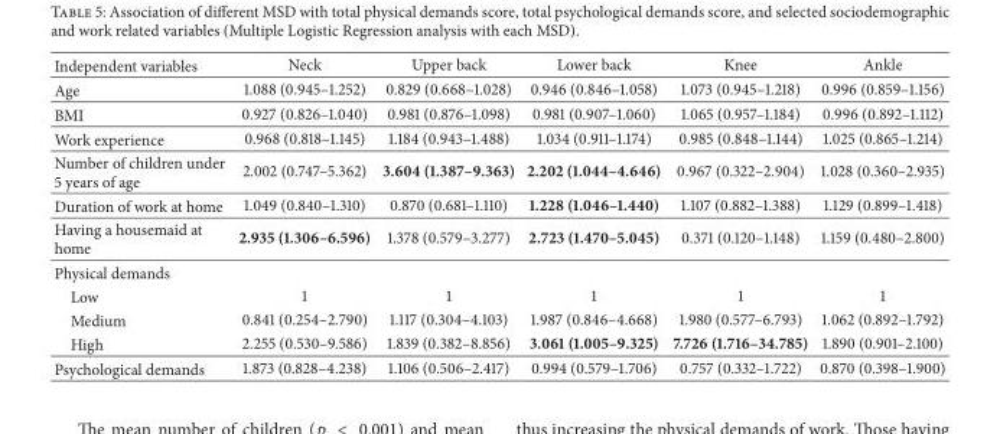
<table><thead><tr><td>Independent variables</td><td>Neck</td><td>Upper back</td><td>Lower back</td><td>Knee</td><td>Ankle</td></tr></thead><tbody><tr><td>Age</td><td>1.088 (0.945–1.252)</td><td>0.829 (0.668–1.028)</td><td>0.946 (0.846–1.058)</td><td>1.073 (0.945–1.218)</td><td>0.996 (0.859–1.156)</td></tr><tr><td>BMI</td><td>0.927 (0.826–1.040)</td><td>0.981 (0.876–1.098)</td><td>0.981 (0.907–1.060)</td><td>1.065 (0.957–1.184)</td><td>0.996 (0.892–1.112)</td></tr><tr><td>Work experience</td><td>0.968 (0.818–1.145)</td><td>1.184 (0.943–1.488)</td><td>1.034 (0.911–1.174)</td><td>0.985 (0.848–1.144)</td><td>1.025 (0.865–1.214)</td></tr><tr><td>Number of children under 5 years of age</td><td>2.002 (0.747–5.362)</td><td>3.604 (1.387–9.363)</td><td>2.202 (1.044–4.646)</td><td>0.967 (0.322–2.904)</td><td>1.028 (0.360–2.935)</td></tr><tr><td>Duration of work at home</td><td>1.049 (0.840–1.310)</td><td>0.870 (0.681–1.110)</td><td>1.228 (1.046–1.440)</td><td>1.107 (0.882–1.388)</td><td>1.129 (0.899–1.418)</td></tr><tr><td>Having a housemaid at home</td><td>2.935 (1.306–6.596)</td><td>1.378 (0.579–3.277)</td><td>2.723 (1.470–5.045)</td><td>0.371 (0.120–1.148)</td><td>1.159 (0.480–2.800)</td></tr><tr><td colspan="6">Physical demands</td></tr><tr><td>Low</td><td>1</td><td>1</td><td>1</td><td>1</td><td>1</td></tr><tr><td>Medium</td><td>0.841 (0.254–2.790)</td><td>1.117 (0.304–4.103)</td><td>1.987 (0.846–4.668)</td><td>1.980 (0.577–6.793)</td><td>1.062 (0.892–1.792)</td></tr><tr><td>High</td><td>2.255 (0.530–9.586)</td><td>1.839 (0.382–8.856)</td><td>3.061 (1.005–9.325)</td><td>7.726 (1.716–34.785)</td><td>1.890 (0.901–2.100)</td></tr><tr><td>Psychological demands</td><td>1.873 (0.828–4.238)</td><td>1.106 (0.506–2.417)</td><td>0.994 (0.579–1.706)</td><td>0.757 (0.332–1.722)</td><td>0.870 (0.398–1.900)</td></tr></tbody></table>